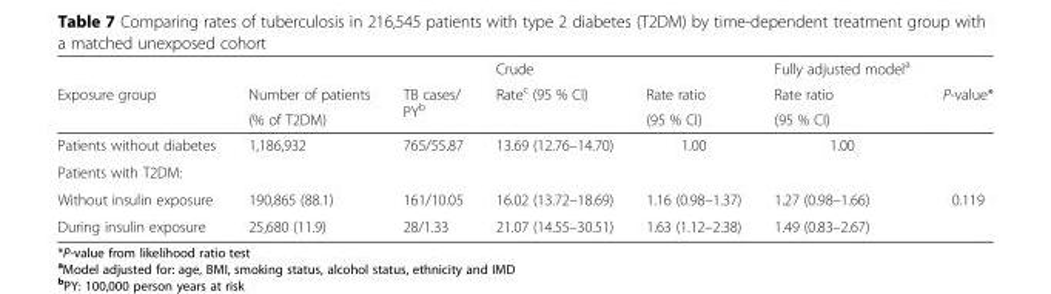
<table><thead><tr><td rowspan="3">Exposure group</td><td rowspan="3">Number of patients (% of T2DM)</td><td rowspan="3">TB cases/ PY<sup>b</sup></td><td rowspan="3">Crude Rate<sup>c</sup> (95 % CI)</td><td rowspan="3">Rate ratio (95 % CI)</td><td rowspan="3">Fully adjusted model<sup>a</sup> Rate ratio (95 % CI)</td><td rowspan="3">P-value*</td></tr><tr></tr><tr></tr></thead><tbody><tr><td>Patients without diabetes</td><td>1,186,932</td><td>765/55.87</td><td>13.69 (12.76–14.70)</td><td>1.00</td><td>1.00</td><td></td></tr><tr><td colspan="7">Patients with T2DM:</td></tr><tr><td>Without insulin exposure</td><td>190,865 (88.1)</td><td>161/10.05</td><td>16.02 (13.72–18.69)</td><td>1.16 (0.98–1.37)</td><td>1.27 (0.98–1.66)</td><td>0.119</td></tr><tr><td>During insulin exposure</td><td>25,680 (11.9)</td><td>28/1.33</td><td>21.07 (14.55–30.51)</td><td>1.63 (1.12–2.38)</td><td>1.49 (0.83–2.67)</td><td></td></tr></tbody></table>